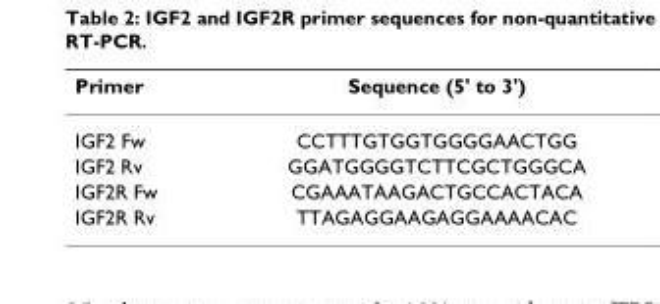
<table><thead><tr><td>Primer</td><td>Sequence (5&#x27; to 3&#x27;)</td></tr></thead><tbody><tr><td>IGF2 Fw</td><td>CCTTTGTGGTGGGGAACTGG</td></tr><tr><td>IGF2 Rv</td><td>GGATGGGGTCTTCGCTGGGCA</td></tr><tr><td>IGF2R Fw</td><td>CGAAATAAGACTGCCACTACA</td></tr><tr><td>IGF2R Rv</td><td>TTAGAGGAAGAGGAAAACAC</td></tr></tbody></table>